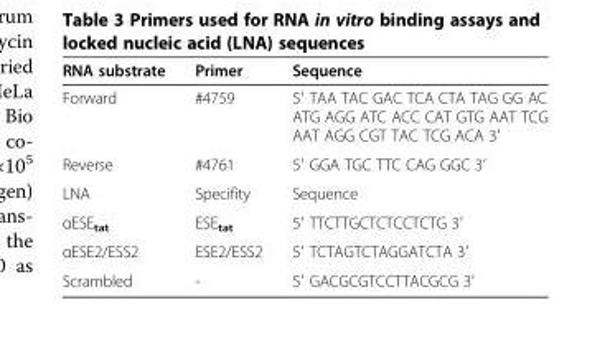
<table><thead><tr><td>RNA substrate</td><td>Primer</td><td>Sequence</td></tr></thead><tbody><tr><td>Forward</td><td>#4759</td><td>5′ TAA TAC GAC TCA CTA TAG GG AC ATG AGG ATC ACC CAT GTG AAT TCG AAT AGG CGT TAC TCG ACA 3′</td></tr><tr><td>Reverse</td><td>#4761</td><td>5′ GGA TGC TTC CAG GGC 3′</td></tr><tr><td>LNA</td><td>Specifity</td><td>Sequence</td></tr><tr><td>αESE<sub>tat</sub></td><td>ESE<sub>tat</sub></td><td>5′ TTCTTGCTCTCCTCTG 3′</td></tr><tr><td>αESE2/ESS2</td><td>ESE2/ESS2</td><td>5′ TCTAGTCTAGGATCTA 3′</td></tr><tr><td>Scrambled</td><td>-</td><td>5′ GACGCGTCCTTACGCG 3′</td></tr></tbody></table>